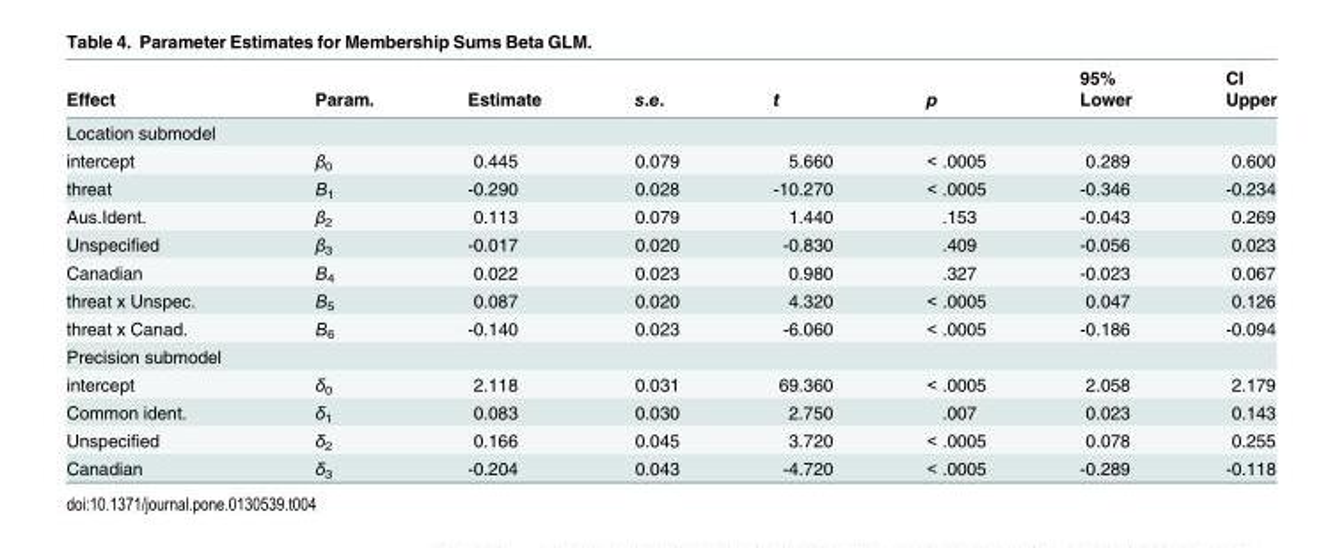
<table><thead><tr><td rowspan="2">Effect</td><td rowspan="2">Param.</td><td rowspan="2">Estimate</td><td rowspan="2">s.e.</td><td rowspan="2">t</td><td rowspan="2">p</td><td rowspan="2">95% Lower</td><td rowspan="2">CI Upper</td></tr><tr></tr></thead><tbody><tr><td colspan="8">Location submodel</td></tr><tr><td>intercept</td><td>β<sub>0</sub></td><td>0.445</td><td>0.079</td><td>5.660</td><td>&lt; .0005</td><td>0.289</td><td>0.600</td></tr><tr><td>threat</td><td>Β<sub>1</sub></td><td>-0.290</td><td>0.028</td><td>-10.270</td><td>&lt; .0005</td><td>-0.346</td><td>-0.234</td></tr><tr><td>Aus.Ident.</td><td>β<sub>2</sub></td><td>0.113</td><td>0.079</td><td>1.440</td><td>.153</td><td>-0.043</td><td>0.269</td></tr><tr><td>Unspecified</td><td>β<sub>3</sub></td><td>-0.017</td><td>0.020</td><td>-0.830</td><td>.409</td><td>-0.056</td><td>0.023</td></tr><tr><td>Canadian</td><td>Β<sub>4</sub></td><td>0.022</td><td>0.023</td><td>0.980</td><td>.327</td><td>-0.023</td><td>0.067</td></tr><tr><td>threat x Unspec.</td><td>Β<sub>5</sub></td><td>0.087</td><td>0.020</td><td>4.320</td><td>&lt; .0005</td><td>0.047</td><td>0.126</td></tr><tr><td>threat x Canad.</td><td>Β<sub>6</sub></td><td>-0.140</td><td>0.023</td><td>-6.060</td><td>&lt; .0005</td><td>-0.186</td><td>-0.094</td></tr><tr><td colspan="8">Precision submodel</td></tr><tr><td>intercept</td><td>δ<sub>0</sub></td><td>2.118</td><td>0.031</td><td>69.360</td><td>&lt; .0005</td><td>2.058</td><td>2.179</td></tr><tr><td>Common ident.</td><td>δ<sub>1</sub></td><td>0.083</td><td>0.030</td><td>2.750</td><td>.007</td><td>0.023</td><td>0.143</td></tr><tr><td>Unspecified</td><td>δ<sub>2</sub></td><td>0.166</td><td>0.045</td><td>3.720</td><td>&lt; .0005</td><td>0.078</td><td>0.255</td></tr><tr><td>Canadian</td><td>δ<sub>3</sub></td><td>-0.204</td><td>0.043</td><td>-4.720</td><td>&lt; .0005</td><td>-0.289</td><td>-0.118</td></tr></tbody></table>